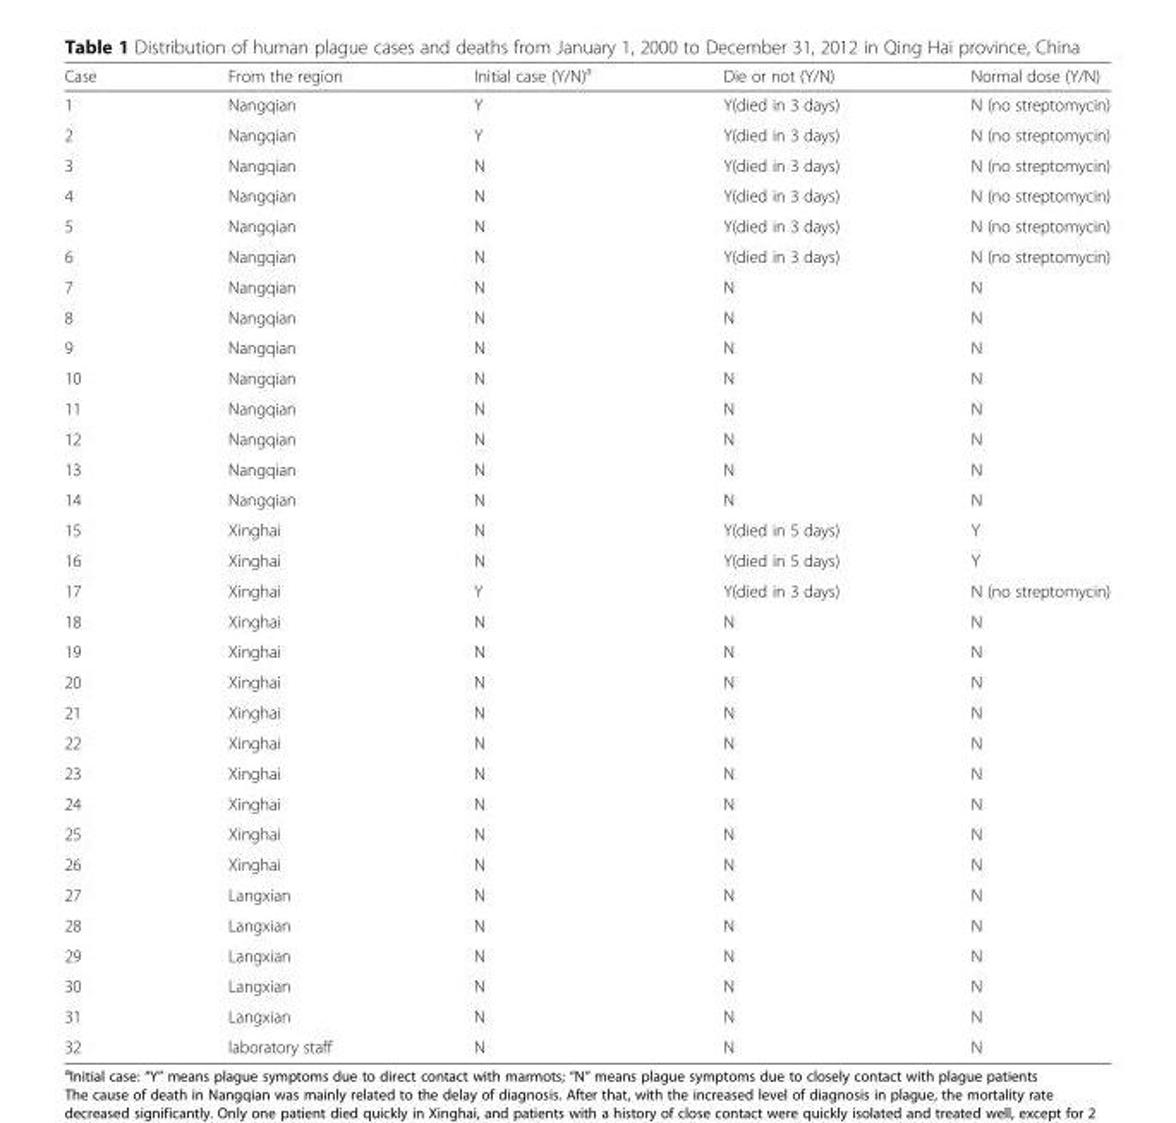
<table><thead><tr><td>Case</td><td>From the region</td><td>Initial case (Y/N)<sup>a</sup></td><td>Die or not (Y/N)</td><td>Normal dose (Y/N)</td></tr></thead><tbody><tr><td>1</td><td>Nangqian</td><td>Y</td><td>Y(died in 3 days)</td><td>N (no streptomycin)</td></tr><tr><td>2</td><td>Nangqian</td><td>Y</td><td>Y(died in 3 days)</td><td>N (no streptomycin)</td></tr><tr><td>3</td><td>Nangqian</td><td>N</td><td>Y(died in 3 days)</td><td>N (no streptomycin)</td></tr><tr><td>4</td><td>Nangqian</td><td>N</td><td>Y(died in 3 days)</td><td>N (no streptomycin)</td></tr><tr><td>5</td><td>Nangqian</td><td>N</td><td>Y(died in 3 days)</td><td>N (no streptomycin)</td></tr><tr><td>6</td><td>Nangqian</td><td>N</td><td>Y(died in 3 days)</td><td>N (no streptomycin)</td></tr><tr><td>7</td><td>Nangqian</td><td>N</td><td>N</td><td>N</td></tr><tr><td>8</td><td>Nangqian</td><td>N</td><td>N</td><td>N</td></tr><tr><td>9</td><td>Nangqian</td><td>N</td><td>N</td><td>N</td></tr><tr><td>10</td><td>Nangqian</td><td>N</td><td>N</td><td>N</td></tr><tr><td>11</td><td>Nangqian</td><td>N</td><td>N</td><td>N</td></tr><tr><td>12</td><td>Nangqian</td><td>N</td><td>N</td><td>N</td></tr><tr><td>13</td><td>Nangqian</td><td>N</td><td>N</td><td>N</td></tr><tr><td>14</td><td>Nangqian</td><td>N</td><td>N</td><td>N</td></tr><tr><td>15</td><td>Xinghai</td><td>N</td><td>Y(died in 5 days)</td><td>Y</td></tr><tr><td>16</td><td>Xinghai</td><td>N</td><td>Y(died in 5 days)</td><td>Y</td></tr><tr><td>17</td><td>Xinghai</td><td>Y</td><td>Y(died in 3 days)</td><td>N (no streptomycin)</td></tr><tr><td>18</td><td>Xinghai</td><td>N</td><td>N</td><td>N</td></tr><tr><td>19</td><td>Xinghai</td><td>N</td><td>N</td><td>N</td></tr><tr><td>20</td><td>Xinghai</td><td>N</td><td>N</td><td>N</td></tr><tr><td>21</td><td>Xinghai</td><td>N</td><td>N</td><td>N</td></tr><tr><td>22</td><td>Xinghai</td><td>N</td><td>N</td><td>N</td></tr><tr><td>23</td><td>Xinghai</td><td>N</td><td>N</td><td>N</td></tr><tr><td>24</td><td>Xinghai</td><td>N</td><td>N</td><td>N</td></tr><tr><td>25</td><td>Xinghai</td><td>N</td><td>N</td><td>N</td></tr><tr><td>26</td><td>Xinghai</td><td>N</td><td>N</td><td>N</td></tr><tr><td>27</td><td>Langxian</td><td>N</td><td>N</td><td>N</td></tr><tr><td>28</td><td>Langxian</td><td>N</td><td>N</td><td>N</td></tr><tr><td>29</td><td>Langxian</td><td>N</td><td>N</td><td>N</td></tr><tr><td>30</td><td>Langxian</td><td>N</td><td>N</td><td>N</td></tr><tr><td>31</td><td>Langxian</td><td>N</td><td>N</td><td>N</td></tr><tr><td>32</td><td>laboratory staff</td><td>N</td><td>N</td><td>N</td></tr></tbody></table>